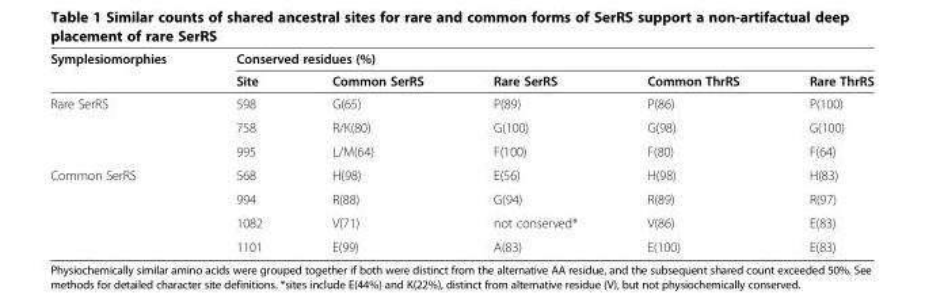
<table><thead><tr><td rowspan="2">Symplesiomorphies</td><td colspan="5">Conserved residues (%)</td></tr><tr><td>Site</td><td>Common SerRS</td><td>Rare SerRS</td><td>Common ThrRS</td><td>Rare ThrRS</td></tr></thead><tbody><tr><td rowspan="3">Rare SerRS</td><td>598</td><td>G(65)</td><td>P(89)</td><td>P(86)</td><td>P(100)</td></tr><tr><td>758</td><td>R/K(80)</td><td>G(100)</td><td>G(98)</td><td>G(100)</td></tr><tr><td>995</td><td>L/M(64)</td><td>F(100)</td><td>F(80)</td><td>F(64)</td></tr><tr><td rowspan="4">Common SerRS</td><td>568</td><td>H(98)</td><td>E(56)</td><td>H(98)</td><td>H(83)</td></tr><tr><td>994</td><td>R(88)</td><td>G(94)</td><td>R(89)</td><td>R(97)</td></tr><tr><td>1082</td><td>V(71)</td><td>not conserved*</td><td>V(86)</td><td>E(83)</td></tr><tr><td>1101</td><td>E(99)</td><td>A(83)</td><td>E(100)</td><td>E(83)</td></tr></tbody></table>